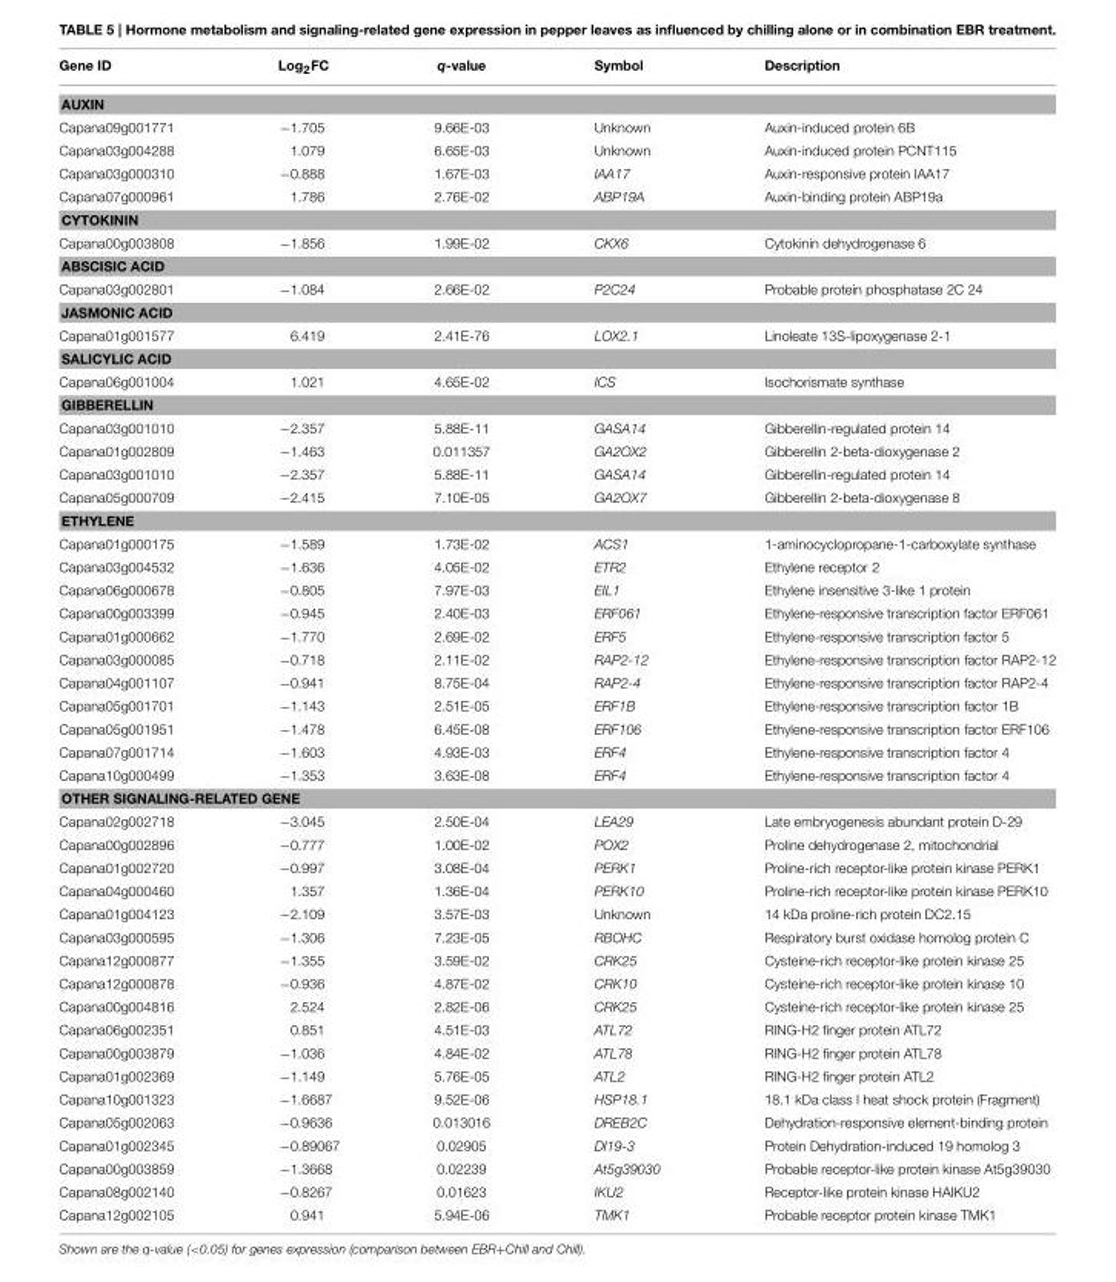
<table><thead><tr><td>Gene ID</td><td>Log<sub>2</sub>FC</td><td>q-value</td><td>Symbol</td><td>Description</td></tr></thead><tbody><tr><td colspan="5">AUXIN</td></tr><tr><td>Capana09g001771</td><td>−1.705</td><td>9.66E-03</td><td>Unknown</td><td>Auxin-induced protein 6B</td></tr><tr><td>Capana03g004288</td><td>1.079</td><td>6.65E-03</td><td>Unknown</td><td>Auxin-induced protein PCNT115</td></tr><tr><td>Capana03g000310</td><td>−0.888</td><td>1.67E-03</td><td>IAA17</td><td>Auxin-responsive protein IAA17</td></tr><tr><td>Capana07g000961</td><td>1.786</td><td>2.76E-02</td><td>ABP19A</td><td>Auxin-binding protein ABP19a</td></tr><tr><td colspan="5">CYTOKININ</td></tr><tr><td>Capana00g003808</td><td>−1.856</td><td>1.99E-02</td><td>CKX6</td><td>Cytokinin dehydrogenase 6</td></tr><tr><td colspan="5">ABSCISIC ACID</td></tr><tr><td>Capana03g002801</td><td>−1.084</td><td>2.66E-02</td><td>P2C24</td><td>Probable protein phosphatase 2C 24</td></tr><tr><td colspan="5">JASMONIC ACID</td></tr><tr><td>Capana01g001577</td><td>6.419</td><td>2.41E-76</td><td>LOX2.1</td><td>Linoleate 13S-lipoxygenase 2-1</td></tr><tr><td colspan="5">SALICYLIC ACID</td></tr><tr><td>Capana06g001004</td><td>1.021</td><td>4.65E-02</td><td>ICS</td><td>Isochorismate synthase</td></tr><tr><td colspan="5">GIBBERELLIN</td></tr><tr><td>Capana03g001010</td><td>−2.357</td><td>5.88E-11</td><td>GASA14</td><td>Gibberellin-regulated protein 14</td></tr><tr><td>Capana01g002809</td><td>−1.463</td><td>0.011357</td><td>GA2OX2</td><td>Gibberellin 2-beta-dioxygenase 2</td></tr><tr><td>Capana03g001010</td><td>−2.357</td><td>5.88E-11</td><td>GASA14</td><td>Gibberellin-regulated protein 14</td></tr><tr><td>Capana05g000709</td><td>−2.415</td><td>7.10E-05</td><td>GA2OX7</td><td>Gibberellin 2-beta-dioxygenase 8</td></tr><tr><td colspan="5">ETHYLENE</td></tr><tr><td>Capana01g000175</td><td>−1.589</td><td>1.73E-02</td><td>ACS1</td><td>1-aminocyclopropane-1-carboxylate synthase</td></tr><tr><td>Capana03g004532</td><td>−1.636</td><td>4.05E-02</td><td>ETR2</td><td>Ethylene receptor 2</td></tr><tr><td>Capana06g000678</td><td>−0.805</td><td>7.97E-03</td><td>EIL1</td><td>Ethylene insensitive 3-like 1 protein</td></tr><tr><td>Capana00g003399</td><td>−0.945</td><td>2.40E-03</td><td>ERF061</td><td>Ethylene-responsive transcription factor ERF061</td></tr><tr><td>Capana01g000662</td><td>−1.770</td><td>2.69E-02</td><td>ERF5</td><td>Ethylene-responsive transcription factor 5</td></tr><tr><td>Capana03g000085</td><td>−0.718</td><td>2.11E-02</td><td>RAP2-12</td><td>Ethylene-responsive transcription factor RAP2-12</td></tr><tr><td>Capana04g001107</td><td>−0.941</td><td>8.75E-04</td><td>RAP2-4</td><td>Ethylene-responsive transcription factor RAP2-4</td></tr><tr><td>Capana05g001701</td><td>−1.143</td><td>2.51E-05</td><td>ERF1B</td><td>Ethylene-responsive transcription factor 1B</td></tr><tr><td>Capana05g001951</td><td>−1.478</td><td>6.45E-08</td><td>ERF106</td><td>Ethylene-responsive transcription factor ERF106</td></tr><tr><td>Capana07g001714</td><td>−1.603</td><td>4.93E-03</td><td>ERF4</td><td>Ethylene-responsive transcription factor 4</td></tr><tr><td>Capana10g000499</td><td>−1.353</td><td>3.63E-08</td><td>ERF4</td><td>Ethylene-responsive transcription factor 4</td></tr><tr><td colspan="5">OTHER SIGNALING-RELATED GENE</td></tr><tr><td>Capana02g002718</td><td>−3.045</td><td>2.50E-04</td><td>LEA29</td><td>Late embryogenesis abundant protein D-29</td></tr><tr><td>Capana00g002896</td><td>−0.777</td><td>1.00E-02</td><td>POX2</td><td>Proline dehydrogenase 2, mitochondrial</td></tr><tr><td>Capana01g002720</td><td>−0.997</td><td>3.08E-04</td><td>PERK1</td><td>Proline-rich receptor-like protein kinase PERK1</td></tr><tr><td>Capana04g000460</td><td>1.357</td><td>1.36E-04</td><td>PERK10</td><td>Proline-rich receptor-like protein kinase PERK10</td></tr><tr><td>Capana01g004123</td><td>−2.109</td><td>3.57E-03</td><td>Unknown</td><td>14 kDa proline-rich protein DC2.15</td></tr><tr><td>Capana03g000595</td><td>−1.306</td><td>7.23E-05</td><td>RBOHC</td><td>Respiratory burst oxidase homolog protein C</td></tr><tr><td>Capana12g000877</td><td>−1.355</td><td>3.59E-02</td><td>CRK25</td><td>Cysteine-rich receptor-like protein kinase 25</td></tr><tr><td>Capana12g000878</td><td>−0.936</td><td>4.87E-02</td><td>CRK10</td><td>Cysteine-rich receptor-like protein kinase 10</td></tr><tr><td>Capana00g004816</td><td>2.524</td><td>2.82E-06</td><td>CRK25</td><td>Cysteine-rich receptor-like protein kinase 25</td></tr><tr><td>Capana06g002351</td><td>0.851</td><td>4.51E-03</td><td>ATL72</td><td>RING-H2 finger protein ATL72</td></tr><tr><td>Capana00g003879</td><td>−1.036</td><td>4.84E-02</td><td>ATL78</td><td>RING-H2 finger protein ATL78</td></tr><tr><td>Capana01g002369</td><td>−1.149</td><td>5.76E-05</td><td>ATL2</td><td>RING-H2 finger protein ATL2</td></tr><tr><td>Capana10g001323</td><td>−1.6687</td><td>9.52E-06</td><td>HSP18.1</td><td>18.1 kDa class I heat shock protein (Fragment)</td></tr><tr><td>Capana05g002063</td><td>−0.9636</td><td>0.013016</td><td>DREB2C</td><td>Dehydration-responsive element-binding protein</td></tr><tr><td>Capana01g002345</td><td>−0.89067</td><td>0.02905</td><td>DI19-3</td><td>Protein Dehydration-induced 19 homolog 3</td></tr><tr><td>Capana00g003859</td><td>−1.3668</td><td>0.02239</td><td>At5g39030</td><td>Probable receptor-like protein kinase At5g39030</td></tr><tr><td>Capana08g002140</td><td>−0.8267</td><td>0.01623</td><td>IKU2</td><td>Receptor-like protein kinase HAIKU2</td></tr><tr><td>Capana12g002105</td><td>0.941</td><td>5.94E-06</td><td>TMK1</td><td>Probable receptor protein kinase TMK1</td></tr></tbody></table>